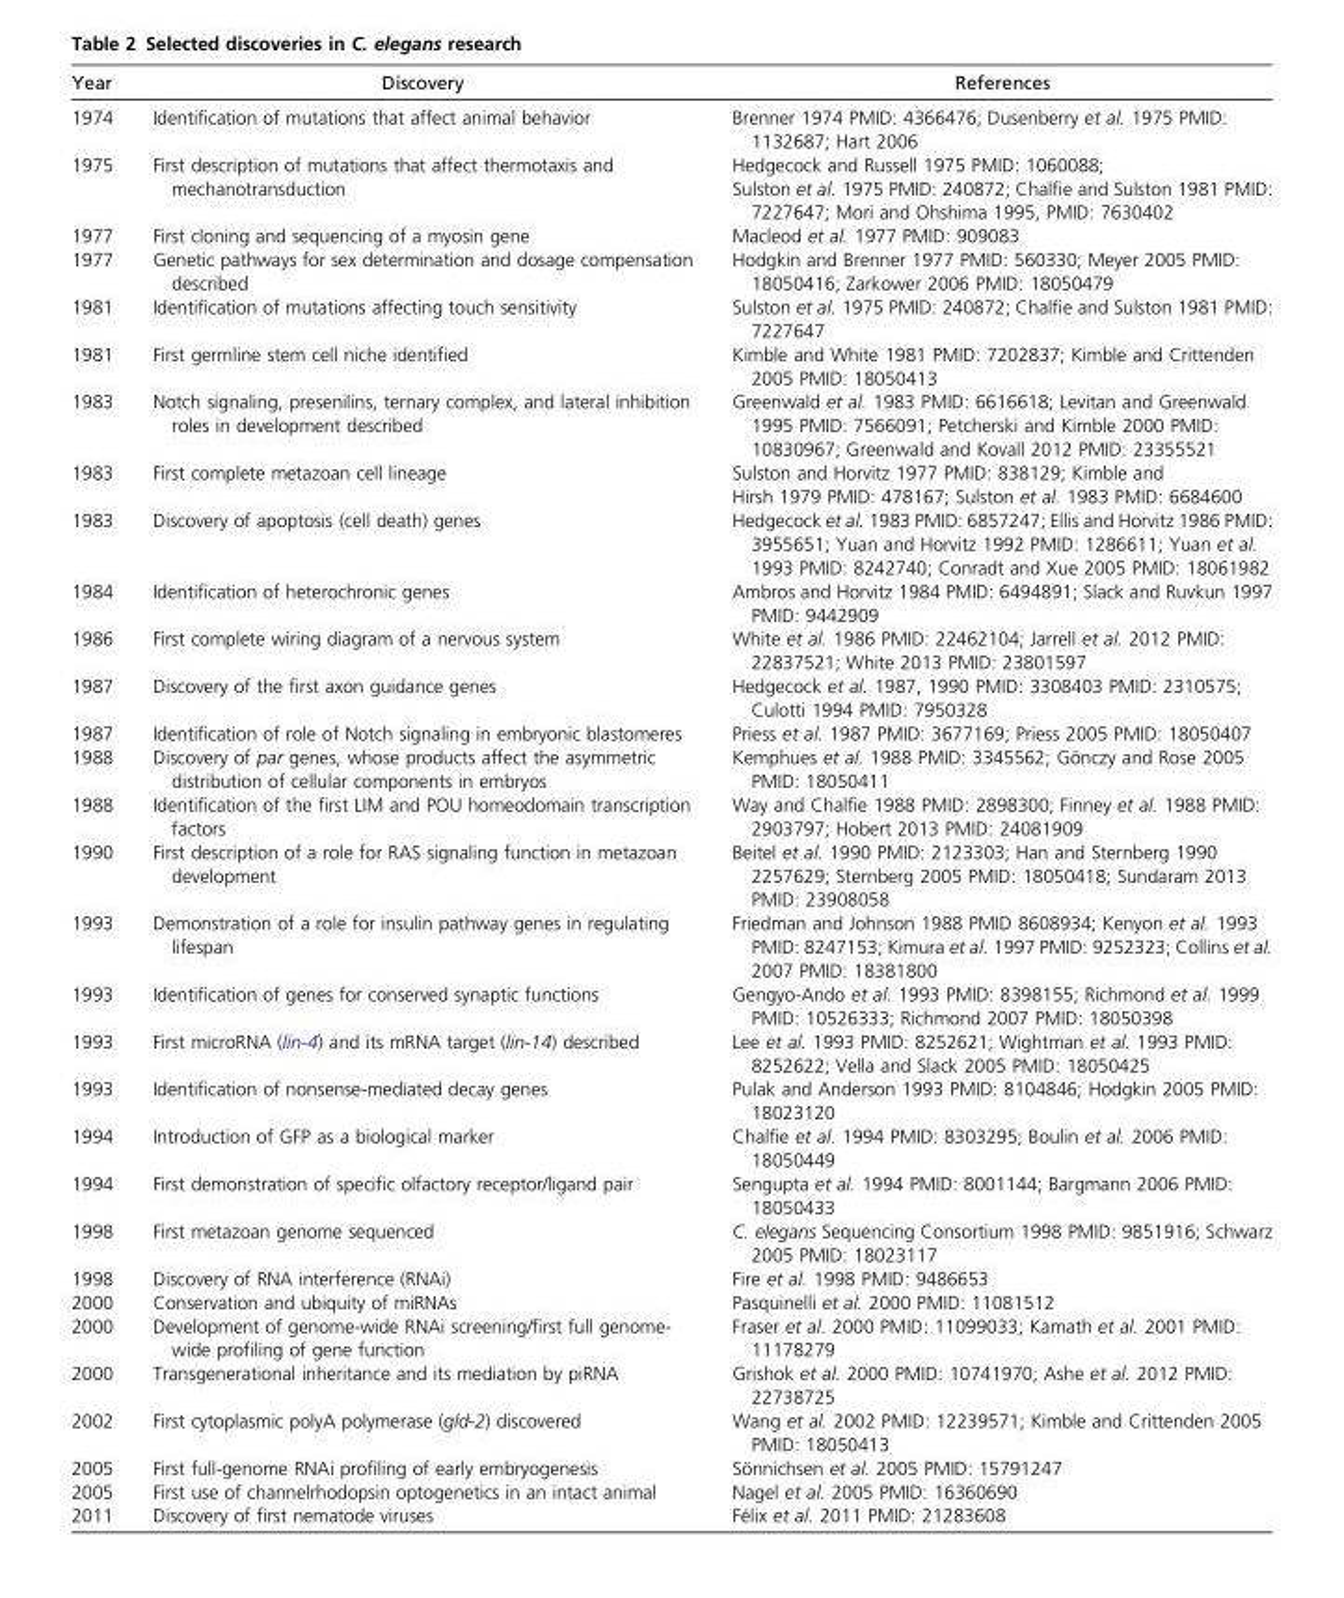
<table><thead><tr><td>Year</td><td>Discovery</td><td>References</td></tr></thead><tbody><tr><td>1974</td><td>Identification of mutations that affect animal behavior</td><td>Brenner 1974 PMID: 4366476; Dusenberry et al. 1975 PMID: 1132687; Hart 2006</td></tr><tr><td rowspan="2">1975</td><td rowspan="2">First description of mutations that affect thermotaxis and mechanotransduction</td><td>Hedgecock and Russell 1975 PMID: 1060088;</td></tr><tr><td>Sulston et al. 1975 PMID: 240872; Chalfie and Sulston 1981 PMID: 7227647; Mori and Ohshima 1995, PMID: 7630402</td></tr><tr><td>1977</td><td>First cloning and sequencing of a myosin gene</td><td>Macleod et al. 1977 PMID: 909083</td></tr><tr><td>1977</td><td>Genetic pathways for sex determination and dosage compensation described</td><td>Hodgkin and Brenner 1977 PMID: 560330; Meyer 2005 PMID: 18050416; Zarkower 2006 PMID: 18050479</td></tr><tr><td>1981</td><td>Identification of mutations affecting touch sensitivity</td><td>Sulston et al. 1975 PMID: 240872; Chalfie and Sulston 1981 PMID: 7227647</td></tr><tr><td>1981</td><td>First germline stem cell niche identified</td><td>Kimble and White 1981 PMID: 7202837; Kimble and Crittenden 2005 PMID: 18050413</td></tr><tr><td>1983</td><td>Notch signaling, presenilins, ternary complex, and lateral inhibition roles in development described</td><td>Greenwald et al. 1983 PMID: 6616618; Levitan and Greenwald 1995 PMID: 7566091; Petcherski and Kimble 2000 PMID: 10830967; Greenwald and Kovall 2012 PMID: 23355521</td></tr><tr><td rowspan="2">1983</td><td rowspan="2">First complete metazoan cell lineage</td><td>Sulston and Horvitz 1977 PMID: 838129; Kimble and</td></tr><tr><td>Hirsh 1979 PMID: 478167; Sulston et al. 1983 PMID: 6684600</td></tr><tr><td>1983</td><td>Discovery of apoptosis (cell death) genes</td><td>Hedgecock et al. 1983 PMID: 6857247; Ellis and Horvitz 1986 PMID: 3955651; Yuan and Horvitz 1992 PMID: 1286611; Yuan et al. 1993 PMID: 8242740; Conradt and Xue 2005 PMID: 18061982</td></tr><tr><td>1984</td><td>Identification of heterochronic genes</td><td>Ambros and Horvitz 1984 PMID: 6494891; Slack and Ruvkun 1997 PMID: 9442909</td></tr><tr><td>1986</td><td>First complete wiring diagram of a nervous system</td><td>White et al. 1986 PMID: 22462104; Jarrell et al. 2012 PMID: 22837521; White 2013 PMID: 23801597</td></tr><tr><td>1987</td><td>Discovery of the first axon guidance genes</td><td>Hedgecock et al. 1987, 1990 PMID: 3308403 PMID: 2310575; Culotti 1994 PMID: 7950328</td></tr><tr><td>1987</td><td>Identification of role of Notch signaling in embryonic blastomeres</td><td>Priess et al. 1987 PMID: 3677169; Priess 2005 PMID: 18050407</td></tr><tr><td>1988</td><td>Discovery of par genes, whose products affect the asymmetric distribution of cellular components in embryos</td><td>Kemphues et al. 1988 PMID: 3345562; Gönczy and Rose 2005 PMID: 18050411</td></tr><tr><td>1988</td><td>Identification of the first LIM and POU homeodomain transcription factors</td><td>Way and Chalfie 1988 PMID: 2898300; Finney et al. 1988 PMID: 2903797; Hobert 2013 PMID: 24081909</td></tr><tr><td>1990</td><td>First description of a role for RAS signaling function in metazoan development</td><td>Beitel et al. 1990 PMID: 2123303; Han and Sternberg 1990 2257629; Sternberg 2005 PMID: 18050418; Sundaram 2013 PMID: 23908058</td></tr><tr><td>1993</td><td>Demonstration of a role for insulin pathway genes in regulating lifespan</td><td>Friedman and Johnson 1988 PMID 8608934; Kenyon et al. 1993 PMID: 8247153; Kimura et al. 1997 PMID: 9252323; Collins et al. 2007 PMID: 18381800</td></tr><tr><td>1993</td><td>Identification of genes for conserved synaptic functions</td><td>Gengyo-Ando et al. 1993 PMID: 8398155; Richmond et al. 1999 PMID: 10526333; Richmond 2007 PMID: 18050398</td></tr><tr><td>1993</td><td>First microRNA (lin-4) and its mRNA target (lin-14) described</td><td>Lee et al. 1993 PMID: 8252621; Wightman et al. 1993 PMID: 8252622; Vella and Slack 2005 PMID: 18050425</td></tr><tr><td>1993</td><td>Identification of nonsense-mediated decay genes</td><td>Pulak and Anderson 1993 PMID: 8104846; Hodgkin 2005 PMID: 18023120</td></tr><tr><td>1994</td><td>Introduction of GFP as a biological marker</td><td>Chalfie et al. 1994 PMID: 8303295; Boulin et al. 2006 PMID: 18050449</td></tr><tr><td>1994</td><td>First demonstration of specific olfactory receptor/ligand pair</td><td>Sengupta et al. 1994 PMID: 8001144; Bargmann 2006 PMID: 18050433</td></tr><tr><td>1998</td><td>First metazoan genome sequenced</td><td>C. elegans Sequencing Consortium 1998 PMID: 9851916; Schwarz 2005 PMID: 18023117</td></tr><tr><td>1998</td><td>Discovery of RNA interference (RNAi)</td><td>Fire et al. 1998 PMID: 9486653</td></tr><tr><td>2000</td><td>Conservation and ubiquity of miRNAs</td><td>Pasquinelli et al. 2000 PMID: 11081512</td></tr><tr><td>2000</td><td>Development of genome-wide RNAi screening/first full genome- wide profiling of gene function</td><td>Fraser et al. 2000 PMID: 11099033; Kamath et al. 2001 PMID: 11178279</td></tr><tr><td>2000</td><td>Transgenerational inheritance and its mediation by piRNA</td><td>Grishok et al. 2000 PMID: 10741970; Ashe et al. 2012 PMID: 22738725</td></tr><tr><td>2002</td><td>First cytoplasmic polyA polymerase (gld-2) discovered</td><td>Wang et al. 2002 PMID: 12239571; Kimble and Crittenden 2005 PMID: 18050413</td></tr><tr><td>2005</td><td>First full-genome RNAi profiling of early embryogenesis</td><td>Sönnichsen et al. 2005 PMID: 15791247</td></tr><tr><td>2005</td><td>First use of channelrhodopsin optogenetics in an intact animal</td><td>Nagel et al. 2005 PMID: 16360690</td></tr><tr><td>2011</td><td>Discovery of first nematode viruses</td><td>Félix et al. 2011 PMID: 21283608</td></tr></tbody></table>